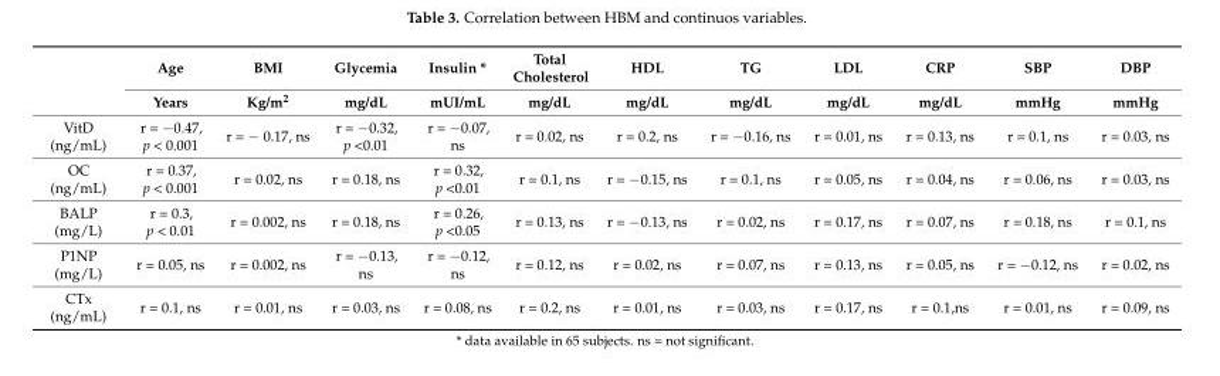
<table><thead><tr><td rowspan="2"></td><td rowspan="2">Age Years</td><td rowspan="2">BMI Kg/m<sup>2</sup></td><td rowspan="2">Glycemia mg/dL</td><td rowspan="2">Insulin * mUI/mL</td><td rowspan="2">Total Cholesterol mg/dL</td><td rowspan="2">HDL mg/dL</td><td rowspan="2">TG mg/dL</td><td rowspan="2">LDL mg/dL</td><td rowspan="2">CRP mg/dL</td><td rowspan="2">SBP mmHg</td><td rowspan="2">DBP mmHg</td></tr><tr></tr></thead><tbody><tr><td>VitD (ng/mL)</td><td>r = −0.47, p &lt; 0.001</td><td>r = − 0.17, ns</td><td>r = −0.32, p &lt;0.01</td><td>r = −0.07, ns</td><td>r = 0.02, ns</td><td>r = 0.2, ns</td><td>r = −0.16, ns</td><td>r = 0.01, ns</td><td>r = 0.13, ns</td><td>r = 0.1, ns</td><td>r = 0.03, ns</td></tr><tr><td>OC (ng/mL)</td><td>r = 0.37, p &lt; 0.001</td><td>r = 0.02, ns</td><td>r = 0.18, ns</td><td>r = 0.32, p &lt;0.01</td><td>r = 0.1, ns</td><td>r = −0.15, ns</td><td>r = 0.1, ns</td><td>r = 0.05, ns</td><td>r = 0.04, ns</td><td>r = 0.06, ns</td><td>r = 0.03, ns</td></tr><tr><td>BALP (mg/L)</td><td>r = 0.3, p &lt; 0.01</td><td>r = 0.002, ns</td><td>r = 0.18, ns</td><td>r = 0.26, p &lt;0.05</td><td>r = 0.13, ns</td><td>r = −0.13, ns</td><td>r = 0.02, ns</td><td>r = 0.17, ns</td><td>r = 0.07, ns</td><td>r = 0.18, ns</td><td>r = 0.1, ns</td></tr><tr><td>P1NP (mg/L)</td><td>r = 0.05, ns</td><td>r = 0.002, ns</td><td>r = −0.13, ns</td><td>r = −0.12, ns</td><td>r = 0.12, ns</td><td>r = 0.02, ns</td><td>r = 0.07, ns</td><td>r = 0.13, ns</td><td>r = 0.05, ns</td><td>r = −0.12, ns</td><td>r = 0.02, ns</td></tr><tr><td>CTx (ng/mL)</td><td>r = 0.1, ns</td><td>r = 0.01, ns</td><td>r = 0.03, ns</td><td>r = 0.08, ns</td><td>r = 0.2, ns</td><td>r = 0.01, ns</td><td>r = 0.03, ns</td><td>r = 0.17, ns</td><td>r = 0.1,ns</td><td>r = 0.01, ns</td><td>r = 0.09, ns</td></tr></tbody></table>